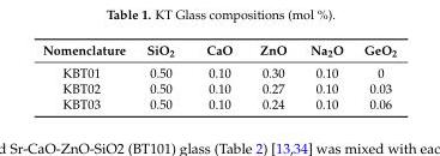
<table><thead><tr><td>Nomenclature</td><td>SiO<sub>2</sub></td><td>CaO</td><td>ZnO</td><td>Na<sub>2</sub>O</td><td>GeO<sub>2</sub></td></tr></thead><tbody><tr><td>KBT01</td><td>0.50</td><td>0.10</td><td>0.30</td><td>0.10</td><td>0</td></tr><tr><td>KBT02</td><td>0.50</td><td>0.10</td><td>0.27</td><td>0.10</td><td>0.03</td></tr><tr><td>KBT03</td><td>0.50</td><td>0.10</td><td>0.24</td><td>0.10</td><td>0.06</td></tr></tbody></table>